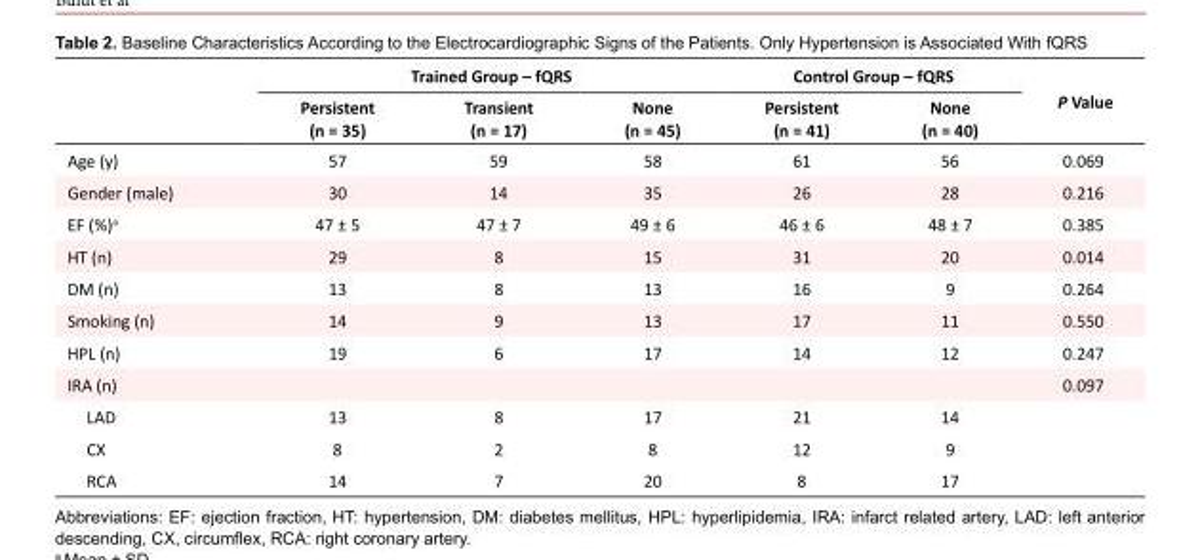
<table><thead><tr><td rowspan="2"></td><td colspan="3">Trained Group – fQRS</td><td colspan="2">Control Group – fQRS</td><td rowspan="2">P Value</td></tr><tr><td>Persistent (n = 35)</td><td>Transient (n = 17)</td><td>None (n = 45)</td><td>Persistent (n = 41)</td><td>None (n = 40)</td></tr></thead><tbody><tr><td>Age (y)</td><td>57</td><td>59</td><td>58</td><td>61</td><td>56</td><td>0.069</td></tr><tr><td>Gender (male)</td><td>30</td><td>14</td><td>35</td><td>26</td><td>28</td><td>0.216</td></tr><tr><td>EF (%)<sup>a</sup></td><td>47 ± 5</td><td>47 ± 7</td><td>49 ± 6</td><td>46 ± 6</td><td>48 ± 7</td><td>0.385</td></tr><tr><td>HT (n)</td><td>29</td><td>8</td><td>15</td><td>31</td><td>20</td><td>0.014</td></tr><tr><td>DM (n)</td><td>13</td><td>8</td><td>13</td><td>16</td><td>9</td><td>0.264</td></tr><tr><td>Smoking (n)</td><td>14</td><td>9</td><td>13</td><td>17</td><td>11</td><td>0.550</td></tr><tr><td>HPL (n)</td><td>19</td><td>6</td><td>17</td><td>14</td><td>12</td><td>0.247</td></tr><tr><td>IRA (n)</td><td></td><td></td><td></td><td></td><td></td><td>0.097</td></tr><tr><td>LAD</td><td>13</td><td>8</td><td>17</td><td>21</td><td>14</td><td></td></tr><tr><td>CX</td><td>8</td><td>2</td><td>8</td><td>12</td><td>9</td><td></td></tr><tr><td>RCA</td><td>14</td><td>7</td><td>20</td><td>8</td><td>17</td><td></td></tr></tbody></table>